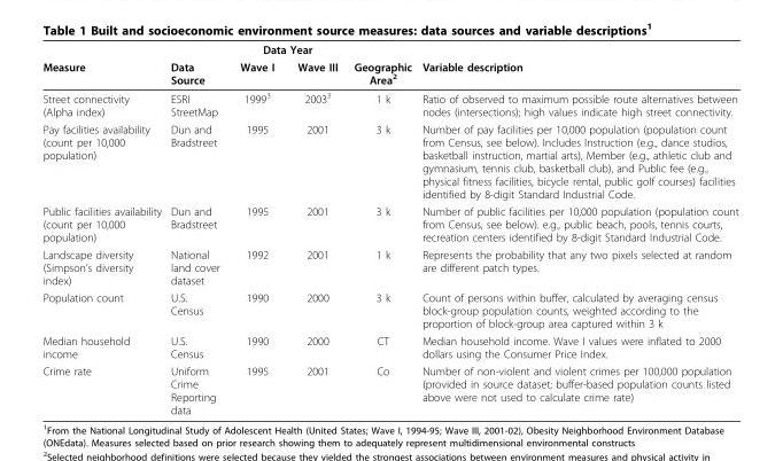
<table><thead><tr><td rowspan="2">Measure</td><td rowspan="2">Data Source</td><td colspan="2">Data Year</td><td rowspan="2">Geographic Area<sup>2</sup></td><td rowspan="2">Variable description</td></tr><tr><td>Wave I</td><td>Wave III</td></tr></thead><tbody><tr><td>Street connectivity (Alpha index)</td><td>ESRI StreetMap</td><td>1999<sup>3</sup></td><td>2003<sup>3</sup></td><td>1 k</td><td>Ratio of observed to maximum possible route alternatives between nodes (intersections); high values indicate high street connectivity.</td></tr><tr><td>Pay facilities availability (count per 10,000 population)</td><td>Dun and Bradstreet</td><td>1995</td><td>2001</td><td>3 k</td><td>Number of pay facilities per 10,000 population (population count from Census, see below). Includes Instruction (e.g., dance studios, basketball instruction, martial arts), Member (e.g., athletic club and gymnasium, tennis club, basketball club), and Public fee (e.g., physical fitness facilities, bicycle rental, public golf courses) facilities identified by 8-digit Standard Industrial Code.</td></tr><tr><td>Public facilities availability (count per 10,000 population)</td><td>Dun and Bradstreet</td><td>1995</td><td>2001</td><td>3 k</td><td>Number of public facilities per 10,000 population (population count from Census, see below). e.g., public beach, pools, tennis courts, recreation centers identified by 8-digit Standard Industrial Code.</td></tr><tr><td>Landscape diversity (Simpson’s diversity index)</td><td>National land cover dataset</td><td>1992</td><td>2001</td><td>1 k</td><td>Represents the probability that any two pixels selected at random are different patch types.</td></tr><tr><td>Population count</td><td>U.S. Census</td><td>1990</td><td>2000</td><td>3 k</td><td>Count of persons within buffer, calculated by averaging census block-group population counts, weighted according to the proportion of block-group area captured within 3 k</td></tr><tr><td>Median household income</td><td>U.S. Census</td><td>1990</td><td>2000</td><td>CT</td><td>Median household income. Wave I values were inflated to 2000 dollars using the Consumer Price Index.</td></tr><tr><td>Crime rate</td><td>Uniform Crime Reporting data</td><td>1995</td><td>2001</td><td>Co</td><td>Number of non-violent and violent crimes per 100,000 population (provided in source dataset; buffer-based population counts listed above were not used to calculate crime rate)</td></tr></tbody></table>